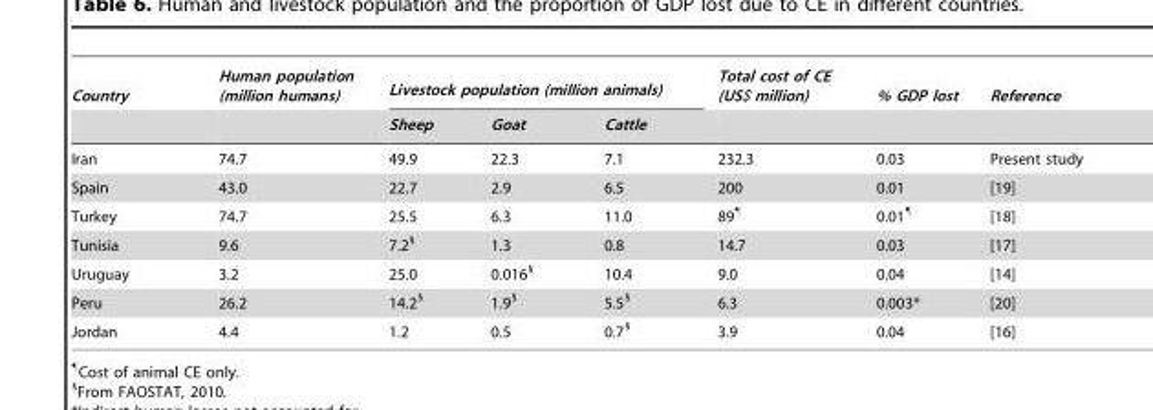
<table><thead><tr><td rowspan="2">Country</td><td rowspan="2">Human population (million humans)</td><td colspan="3">Livestock population (million animals)</td><td rowspan="2">Total cost of CE (US$ million)</td><td rowspan="2">% GDP lost</td><td rowspan="2">Reference</td></tr><tr><td>Sheep</td><td>Goat</td><td>Cattle</td></tr></thead><tbody><tr><td>Iran</td><td>74.7</td><td>49.9</td><td>22.3</td><td>7.1</td><td>232.3</td><td>0.03</td><td>Present study</td></tr><tr><td>Spain</td><td>43.0</td><td>22.7</td><td>2.9</td><td>6.5</td><td>200</td><td>0.01</td><td>[19]</td></tr><tr><td>Turkey</td><td>74.7</td><td>25.5</td><td>6.3</td><td>11.0</td><td>89¶</td><td>0.01¶</td><td>[18]</td></tr><tr><td>Tunisia</td><td>9.6</td><td>7.2§</td><td>1.3</td><td>0.8</td><td>14.7</td><td>0.03</td><td>[17]</td></tr><tr><td>Uruguay</td><td>3.2</td><td>25.0</td><td>0.016§</td><td>10.4</td><td>9.0</td><td>0.04</td><td>[14]</td></tr><tr><td>Peru</td><td>26.2</td><td>14.2§</td><td>1.9§</td><td>5.5§</td><td>6.3</td><td>0.003*</td><td>[20]</td></tr><tr><td>Jordan</td><td>4.4</td><td>1.2</td><td>0.5</td><td>0.7§</td><td>3.9</td><td>0.04</td><td>[16]</td></tr></tbody></table>